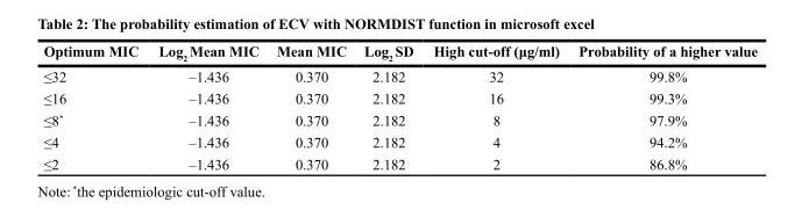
<table><thead><tr><td>Optimum MIC</td><td>Log<sub>2</sub> Mean MIC</td><td>Mean MIC</td><td>Log<sub>2</sub> SD</td><td>High cut-off (μg/ml)</td><td>Probability of a higher value</td></tr></thead><tbody><tr><td>≤32</td><td>–1.436</td><td>0.370</td><td>2.182</td><td>32</td><td>99.8%</td></tr><tr><td>≤16</td><td>–1.436</td><td>0.370</td><td>2.182</td><td>16</td><td>99.3%</td></tr><tr><td>≤8*</td><td>–1.436</td><td>0.370</td><td>2.182</td><td>8</td><td>97.9%</td></tr><tr><td>≤4</td><td>–1.436</td><td>0.370</td><td>2.182</td><td>4</td><td>94.2%</td></tr><tr><td>≤2</td><td>–1.436</td><td>0.370</td><td>2.182</td><td>2</td><td>86.8%</td></tr></tbody></table>